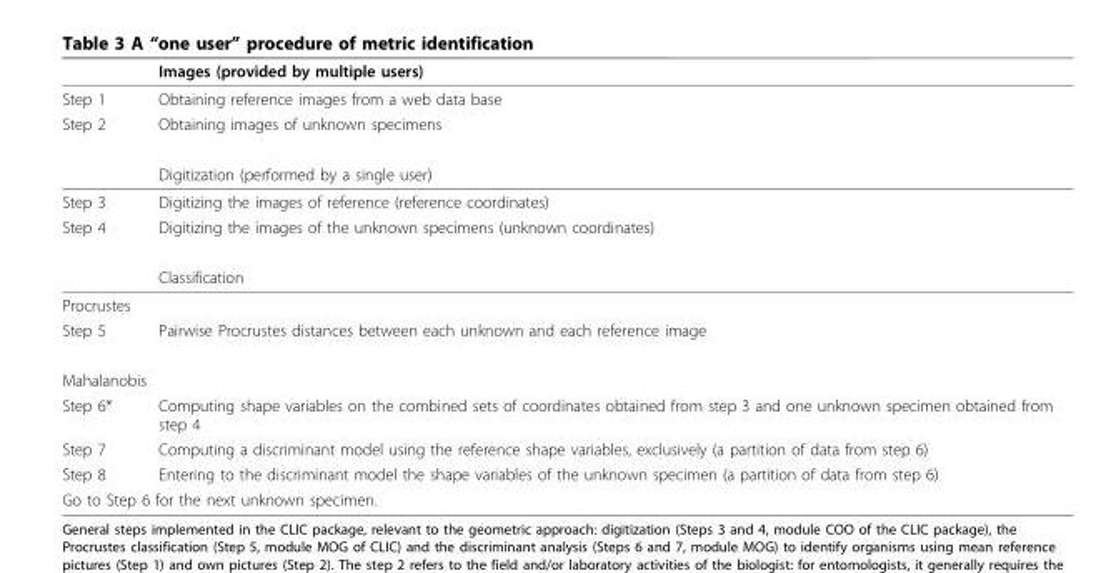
<table><thead><tr><td></td><td>Images (provided by multiple users)</td></tr></thead><tbody><tr><td>Step 1</td><td>Obtaining reference images from a web data base</td></tr><tr><td rowspan="2">Step 2</td><td>Obtaining images of unknown specimens</td></tr><tr><td>Digitization (performed by a single user)</td></tr><tr><td>Step 3</td><td>Digitizing the images of reference (reference coordinates)</td></tr><tr><td rowspan="2">Step 4</td><td>Digitizing the images of the unknown specimens (unknown coordinates)</td></tr><tr><td>Classification</td></tr><tr><td colspan="2">Procrustes</td></tr><tr><td>Step 5</td><td>Pairwise Procrustes distances between each unknown and each reference image</td></tr><tr><td colspan="2">Mahalanobis</td></tr><tr><td>Step 6*</td><td>Computing shape variables on the combined sets of coordinates obtained from step 3 and one unknown specimen obtained from step 4</td></tr><tr><td>Step 7</td><td>Computing a discriminant model using the reference shape variables, exclusively (a partition of data from step 6)</td></tr><tr><td>Step 8</td><td>Entering to the discriminant model the shape variables of the unknown specimen (a partition of data from step 6)</td></tr><tr><td colspan="2">Go to Step 6 for the next unknown specimen.</td></tr></tbody></table>